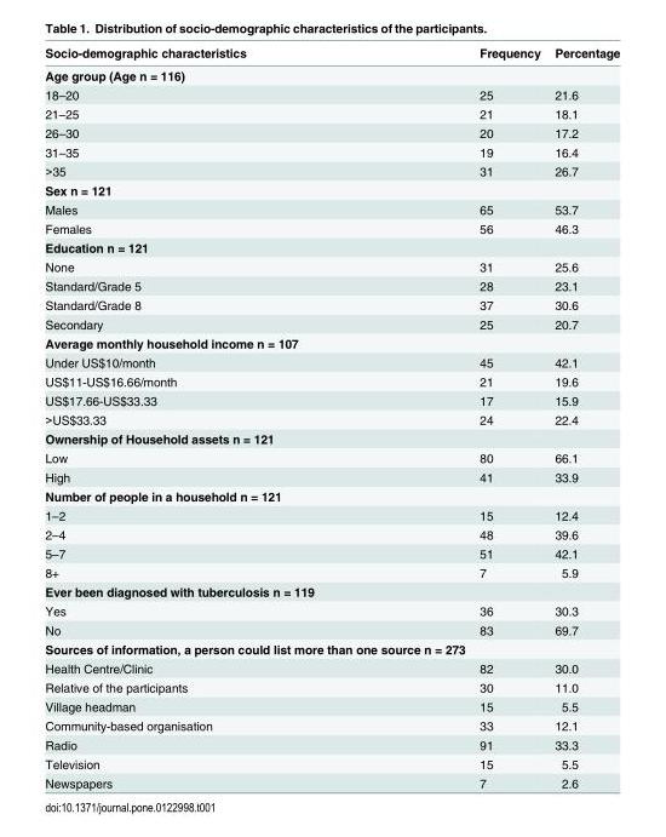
<table><thead><tr><td>Socio-demographic characteristics</td><td>Frequency</td><td>Percentage</td></tr></thead><tbody><tr><td colspan="3">Age group (Age n = 116)</td></tr><tr><td>18–20</td><td>25</td><td>21.6</td></tr><tr><td>21–25</td><td>21</td><td>18.1</td></tr><tr><td>26–30</td><td>20</td><td>17.2</td></tr><tr><td>31–35</td><td>19</td><td>16.4</td></tr><tr><td>&gt;35</td><td>31</td><td>26.7</td></tr><tr><td colspan="3">Sex n = 121</td></tr><tr><td>Males</td><td>65</td><td>53.7</td></tr><tr><td>Females</td><td>56</td><td>46.3</td></tr><tr><td colspan="3">Education n = 121</td></tr><tr><td>None</td><td>31</td><td>25.6</td></tr><tr><td>Standard/Grade 5</td><td>28</td><td>23.1</td></tr><tr><td>Standard/Grade 8</td><td>37</td><td>30.6</td></tr><tr><td>Secondary</td><td>25</td><td>20.7</td></tr><tr><td colspan="3">Average monthly household income n = 107</td></tr><tr><td>Under US$10/month</td><td>45</td><td>42.1</td></tr><tr><td>US$11-US$16.66/month</td><td>21</td><td>19.6</td></tr><tr><td>US$17.66-US$33.33</td><td>17</td><td>15.9</td></tr><tr><td>&gt;US$33.33</td><td>24</td><td>22.4</td></tr><tr><td colspan="3">Ownership of Household assets n = 121</td></tr><tr><td>Low</td><td>80</td><td>66.1</td></tr><tr><td>High</td><td>41</td><td>33.9</td></tr><tr><td colspan="3">Number of people in a household n = 121</td></tr><tr><td>1–2</td><td>15</td><td>12.4</td></tr><tr><td>2–4</td><td>48</td><td>39.6</td></tr><tr><td>5–7</td><td>51</td><td>42.1</td></tr><tr><td>8+</td><td>7</td><td>5.9</td></tr><tr><td colspan="3">Ever been diagnosed with tuberculosis n = 119</td></tr><tr><td>Yes</td><td>36</td><td>30.3</td></tr><tr><td>No</td><td>83</td><td>69.7</td></tr><tr><td colspan="3">Sources of information, a person could list more than one source n = 273</td></tr><tr><td>Health Centre/Clinic</td><td>82</td><td>30.0</td></tr><tr><td>Relative of the participants</td><td>30</td><td>11.0</td></tr><tr><td>Village headman</td><td>15</td><td>5.5</td></tr><tr><td>Community-based organisation</td><td>33</td><td>12.1</td></tr><tr><td>Radio</td><td>91</td><td>33.3</td></tr><tr><td>Television</td><td>15</td><td>5.5</td></tr><tr><td>Newspapers</td><td>7</td><td>2.6</td></tr></tbody></table>